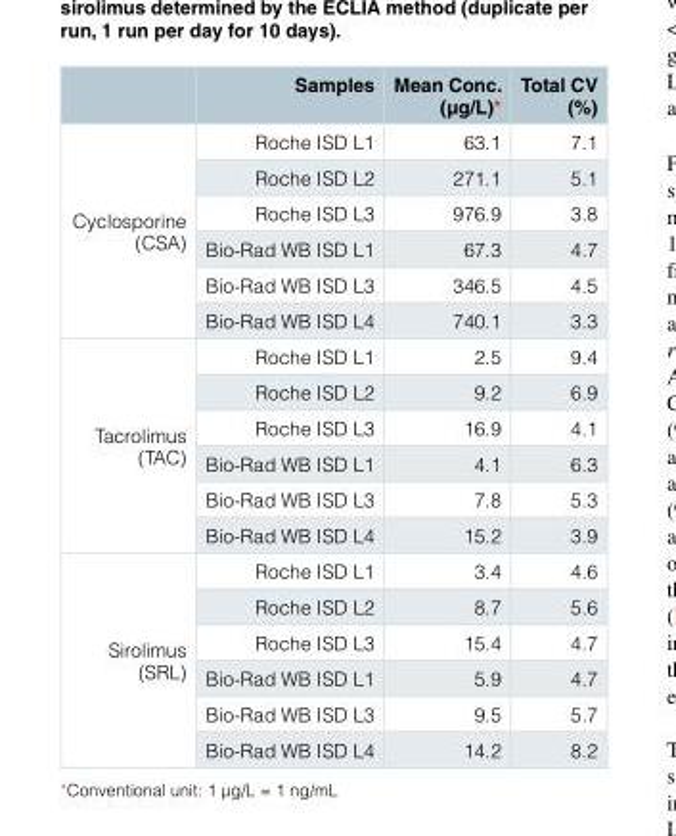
<table><thead><tr><td></td><td>Samples</td><td>Mean Conc. (μg/L)*</td><td>Total CV (%)</td></tr></thead><tbody><tr><td rowspan="6">Cyclosporine (CSA)</td><td>Roche ISD L1</td><td>63.1</td><td>7.1</td></tr><tr><td>Roche ISD L2</td><td>271.1</td><td>5.1</td></tr><tr><td>Roche ISD L3</td><td>976.9</td><td>3.8</td></tr><tr><td>Bio-Rad WB ISD L1</td><td>67.3</td><td>4.7</td></tr><tr><td>Bio-Rad WB ISD L3</td><td>346.5</td><td>4.5</td></tr><tr><td>Bio-Rad WB ISD L4</td><td>740.1</td><td>3.3</td></tr><tr><td rowspan="6">Tacrolimus (TAC)</td><td>Roche ISD L1</td><td>2.5</td><td>9.4</td></tr><tr><td>Roche ISD L2</td><td>9.2</td><td>6.9</td></tr><tr><td>Roche ISD L3</td><td>16.9</td><td>4.1</td></tr><tr><td>Bio-Rad WB ISD L1</td><td>4.1</td><td>6.3</td></tr><tr><td>Bio-Rad WB ISD L3</td><td>7.8</td><td>5.3</td></tr><tr><td>Bio-Rad WB ISD L4</td><td>15.2</td><td>3.9</td></tr><tr><td rowspan="6">Sirolimus (SRL)</td><td>Roche ISD L1</td><td>3.4</td><td>4.6</td></tr><tr><td>Roche ISD L2</td><td>8.7</td><td>5.6</td></tr><tr><td>Roche ISD L3</td><td>15.4</td><td>4.7</td></tr><tr><td>Bio-Rad WB ISD L1</td><td>5.9</td><td>4.7</td></tr><tr><td>Bio-Rad WB ISD L3</td><td>9.5</td><td>5.7</td></tr><tr><td>Bio-Rad WB ISD L4</td><td>14.2</td><td>8.2</td></tr></tbody></table>